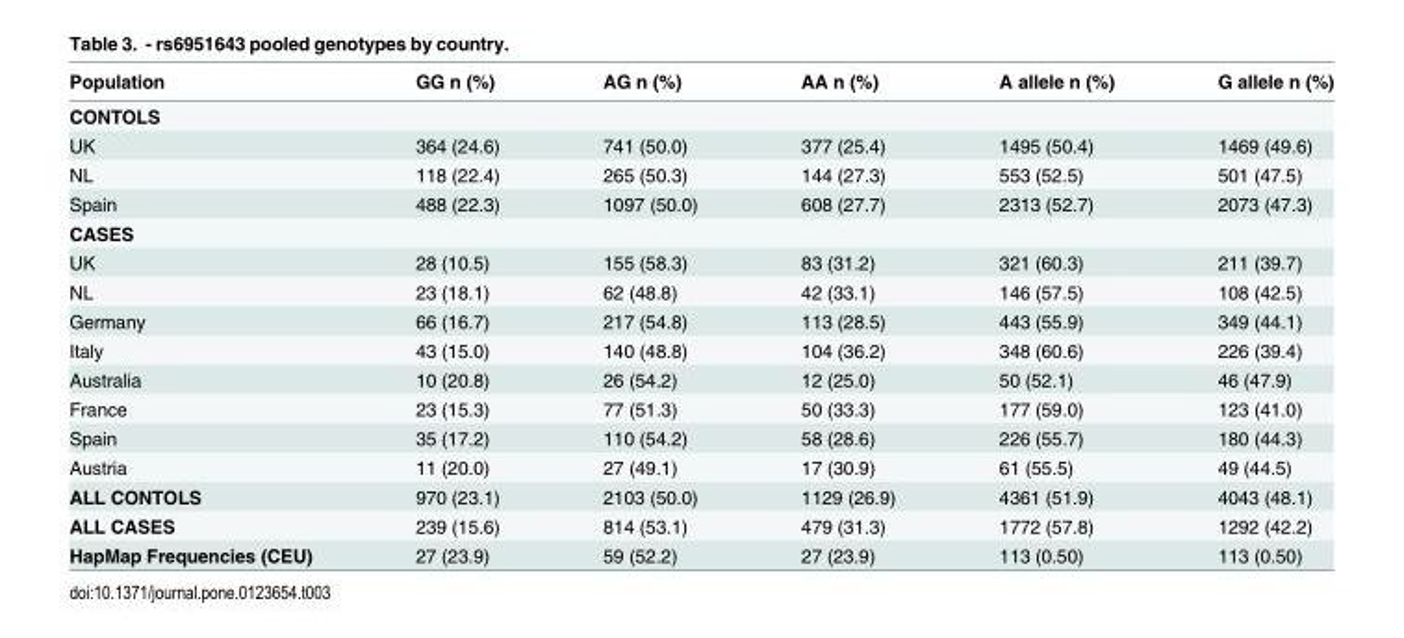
<table><thead><tr><td>Population</td><td>GG n (%)</td><td>AG n (%)</td><td>AA n (%)</td><td>A allele n (%)</td><td>G allele n (%)</td></tr></thead><tbody><tr><td colspan="6">CONTOLS</td></tr><tr><td>UK</td><td>364 (24.6)</td><td>741 (50.0)</td><td>377 (25.4)</td><td>1495 (50.4)</td><td>1469 (49.6)</td></tr><tr><td>NL</td><td>118 (22.4)</td><td>265 (50.3)</td><td>144 (27.3)</td><td>553 (52.5)</td><td>501 (47.5)</td></tr><tr><td>Spain</td><td>488 (22.3)</td><td>1097 (50.0)</td><td>608 (27.7)</td><td>2313 (52.7)</td><td>2073 (47.3)</td></tr><tr><td colspan="6">CASES</td></tr><tr><td>UK</td><td>28 (10.5)</td><td>155 (58.3)</td><td>83 (31.2)</td><td>321 (60.3)</td><td>211 (39.7)</td></tr><tr><td>NL</td><td>23 (18.1)</td><td>62 (48.8)</td><td>42 (33.1)</td><td>146 (57.5)</td><td>108 (42.5)</td></tr><tr><td>Germany</td><td>66 (16.7)</td><td>217 (54.8)</td><td>113 (28.5)</td><td>443 (55.9)</td><td>349 (44.1)</td></tr><tr><td>Italy</td><td>43 (15.0)</td><td>140 (48.8)</td><td>104 (36.2)</td><td>348 (60.6)</td><td>226 (39.4)</td></tr><tr><td>Australia</td><td>10 (20.8)</td><td>26 (54.2)</td><td>12 (25.0)</td><td>50 (52.1)</td><td>46 (47.9)</td></tr><tr><td>France</td><td>23 (15.3)</td><td>77 (51.3)</td><td>50 (33.3)</td><td>177 (59.0)</td><td>123 (41.0)</td></tr><tr><td>Spain</td><td>35 (17.2)</td><td>110 (54.2)</td><td>58 (28.6)</td><td>226 (55.7)</td><td>180 (44.3)</td></tr><tr><td>Austria</td><td>11 (20.0)</td><td>27 (49.1)</td><td>17 (30.9)</td><td>61 (55.5)</td><td>49 (44.5)</td></tr><tr><td>ALL CONTOLS</td><td>970 (23.1)</td><td>2103 (50.0)</td><td>1129 (26.9)</td><td>4361 (51.9)</td><td>4043 (48.1)</td></tr><tr><td>ALL CASES</td><td>239 (15.6)</td><td>814 (53.1)</td><td>479 (31.3)</td><td>1772 (57.8)</td><td>1292 (42.2)</td></tr><tr><td>HapMap Frequencies (CEU)</td><td>27 (23.9)</td><td>59 (52.2)</td><td>27 (23.9)</td><td>113 (0.50)</td><td>113 (0.50)</td></tr></tbody></table>